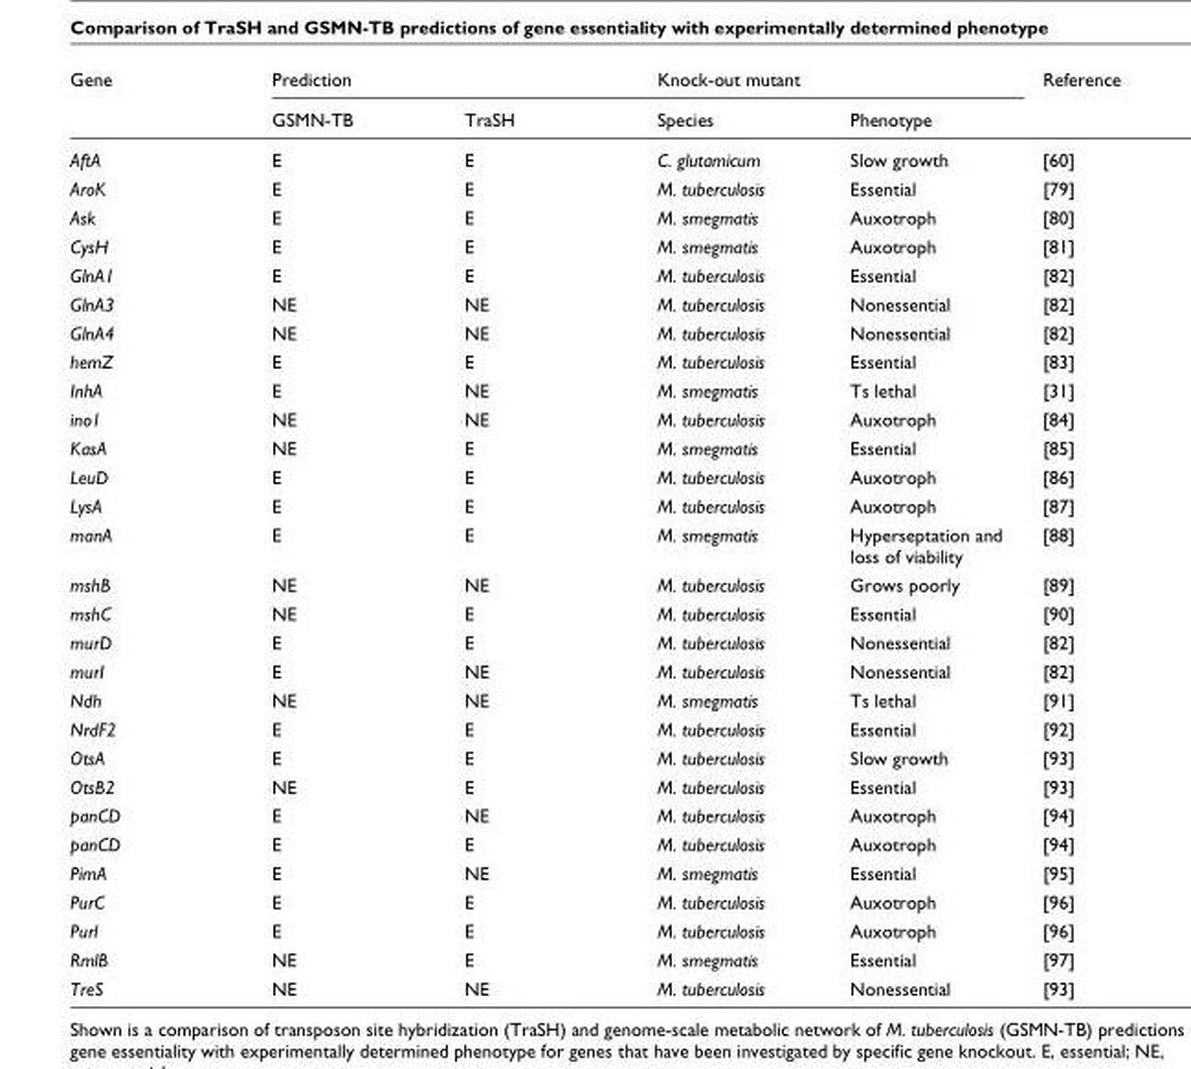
<table><thead><tr><td rowspan="2">Gene</td><td rowspan="2">Prediction GSMN-TB</td><td rowspan="2">TraSH</td><td rowspan="2">Knock-out mutant Species</td><td rowspan="2">Phenotype</td><td rowspan="2">Reference</td></tr><tr></tr></thead><tbody><tr><td>AftA</td><td>E</td><td>E</td><td>C. glutamicum</td><td>Slow growth</td><td>[60]</td></tr><tr><td>AroK</td><td>E</td><td>E</td><td>M. tuberculosis</td><td>Essential</td><td>[79]</td></tr><tr><td>Ask</td><td>E</td><td>E</td><td>M. smegmatis</td><td>Auxotroph</td><td>[80]</td></tr><tr><td>CysH</td><td>E</td><td>E</td><td>M. smegmatis</td><td>Auxotroph</td><td>[81]</td></tr><tr><td>GlnA1</td><td>E</td><td>E</td><td>M. tuberculosis</td><td>Essential</td><td>[82]</td></tr><tr><td>GlnA3</td><td>NE</td><td>NE</td><td>M. tuberculosis</td><td>Nonessential</td><td>[82]</td></tr><tr><td>GlnA4</td><td>NE</td><td>NE</td><td>M. tuberculosis</td><td>Nonessential</td><td>[82]</td></tr><tr><td>hemZ</td><td>E</td><td>E</td><td>M. tuberculosis</td><td>Essential</td><td>[83]</td></tr><tr><td>InhA</td><td>E</td><td>NE</td><td>M. smegmatis</td><td>Ts lethal</td><td>[31]</td></tr><tr><td>ino1</td><td>NE</td><td>NE</td><td>M. tuberculosis</td><td>Auxotroph</td><td>[84]</td></tr><tr><td>KasA</td><td>NE</td><td>E</td><td>M. smegmatis</td><td>Essential</td><td>[85]</td></tr><tr><td>LeuD</td><td>E</td><td>E</td><td>M. tuberculosis</td><td>Auxotroph</td><td>[86]</td></tr><tr><td>LysA</td><td>E</td><td>E</td><td>M. tuberculosis</td><td>Auxotroph</td><td>[87]</td></tr><tr><td>manA</td><td>E</td><td>E</td><td>M. smegmatis</td><td>Hyperseptation and loss of viability</td><td>[88]</td></tr><tr><td>mshB</td><td>NE</td><td>NE</td><td>M. tuberculosis</td><td>Grows poorly</td><td>[89]</td></tr><tr><td>mshC</td><td>NE</td><td>E</td><td>M. tuberculosis</td><td>Essential</td><td>[90]</td></tr><tr><td>murD</td><td>E</td><td>E</td><td>M. tuberculosis</td><td>Nonessential</td><td>[82]</td></tr><tr><td>murI</td><td>E</td><td>NE</td><td>M. tuberculosis</td><td>Nonessential</td><td>[82]</td></tr><tr><td>Ndh</td><td>NE</td><td>NE</td><td>M. smegmatis</td><td>Ts lethal</td><td>[91]</td></tr><tr><td>NrdF2</td><td>E</td><td>E</td><td>M. tuberculosis</td><td>Essential</td><td>[92]</td></tr><tr><td>OtsA</td><td>E</td><td>E</td><td>M. tuberculosis</td><td>Slow growth</td><td>[93]</td></tr><tr><td>OtsB2</td><td>NE</td><td>E</td><td>M. tuberculosis</td><td>Essential</td><td>[93]</td></tr><tr><td>panCD</td><td>E</td><td>NE</td><td>M. tuberculosis</td><td>Auxotroph</td><td>[94]</td></tr><tr><td>panCD</td><td>E</td><td>E</td><td>M. tuberculosis</td><td>Auxotroph</td><td>[94]</td></tr><tr><td>PimA</td><td>E</td><td>NE</td><td>M. smegmatis</td><td>Essential</td><td>[95]</td></tr><tr><td>PurC</td><td>E</td><td>E</td><td>M. tuberculosis</td><td>Auxotroph</td><td>[96]</td></tr><tr><td>Purl</td><td>E</td><td>E</td><td>M. tuberculosis</td><td>Auxotroph</td><td>[96]</td></tr><tr><td>RmlB</td><td>NE</td><td>E</td><td>M. smegmatis</td><td>Essential</td><td>[97]</td></tr><tr><td>TreS</td><td>NE</td><td>NE</td><td>M. tuberculosis</td><td>Nonessential</td><td>[93]</td></tr></tbody></table>